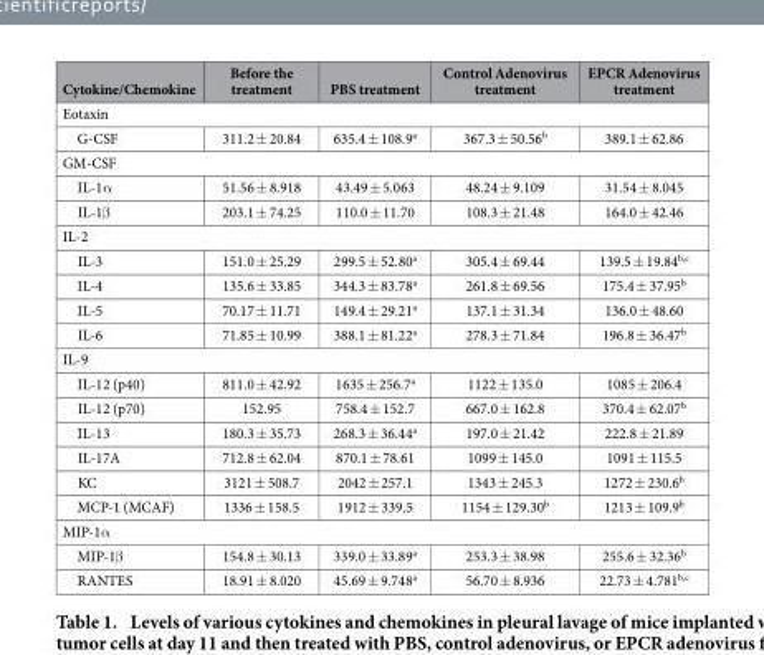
<table><thead><tr><td>Cytokine/Chemokine</td><td>Before the treatment</td><td>PBS treatment</td><td>Control Adenovirus treatment</td><td>EPCR Adenovirus treatment</td></tr></thead><tbody><tr><td colspan="5">Eotaxin</td></tr><tr><td>G-CSF</td><td>311.2 ± 20.84</td><td>635.4 ± 108.9<sup>a</sup></td><td>367.3 ± 50.56<sup>b</sup></td><td>389.1 ± 62.86</td></tr><tr><td colspan="5">GM-CSF</td></tr><tr><td>IL-1α</td><td>51.56 ± 8.918</td><td>43.49 ± 5.063</td><td>48.24 ± 9.109</td><td>31.54 ± 8.045</td></tr><tr><td>IL-1β</td><td>203.1 ± 74.25</td><td>110.0 ± 11.70</td><td>108.3 ± 21.48</td><td>164.0 ± 42.46</td></tr><tr><td colspan="5">IL-2</td></tr><tr><td>IL-3</td><td>151.0 ± 25.29</td><td>299.5 ± 52.80<sup>a</sup></td><td>305.4 ± 69.44</td><td>139.5 ± 19.84<sup>b,c</sup></td></tr><tr><td>IL-4</td><td>135.6 ± 33.85</td><td>344.3 ± 83.78<sup>a</sup></td><td>261.8 ± 69.56</td><td>175.4 ± 37.95<sup>b</sup></td></tr><tr><td>IL-5</td><td>70.17 ± 11.71</td><td>149.4 ± 29.21<sup>a</sup></td><td>137.1 ± 31.34</td><td>136.0 ± 48.60</td></tr><tr><td>IL-6</td><td>71.85 ± 10.99</td><td>388.1 ± 81.22<sup>a</sup></td><td>278.3 ± 71.84</td><td>196.8 ± 36.47<sup>b</sup></td></tr><tr><td colspan="5">IL-9</td></tr><tr><td>IL-12 (p40)</td><td>811.0 ± 42.92</td><td>1635 ± 256.7<sup>a</sup></td><td>1122 ± 135.0</td><td>1085 ± 206.4</td></tr><tr><td>IL-12 (p70)</td><td>152.95</td><td>758.4 ± 152.7</td><td>667.0 ± 162.8</td><td>370.4 ± 62.07<sup>b</sup></td></tr><tr><td>IL-13</td><td>180.3 ± 35.73</td><td>268.3 ± 36.44<sup>a</sup></td><td>197.0 ± 21.42</td><td>222.8 ± 21.89</td></tr><tr><td>IL-17A</td><td>712.8 ± 62.04</td><td>870.1 ± 78.61</td><td>1099 ± 145.0</td><td>1091 ± 115.5</td></tr><tr><td>KC</td><td>3121 ± 508.7</td><td>2042 ± 257.1</td><td>1343 ± 245.3</td><td>1272 ± 230.6<sup>b</sup></td></tr><tr><td>MCP-1 (MCAF)</td><td>1336 ± 158.5</td><td>1912 ± 339.5</td><td>1154 ± 129.30<sup>b</sup></td><td>1213 ± 109.9<sup>b</sup></td></tr><tr><td colspan="5">MIP-1α</td></tr><tr><td>MIP-1β</td><td>154.8 ± 30.13</td><td>339.0 ± 33.89<sup>a</sup></td><td>253.3 ± 38.98</td><td>255.6 ± 32.36<sup>b</sup></td></tr><tr><td>RANTES</td><td>18.91 ± 8.020</td><td>45.69 ± 9.748<sup>a</sup></td><td>56.70 ± 8.936</td><td>22.73 ± 4.781<sup>b,c</sup></td></tr></tbody></table>